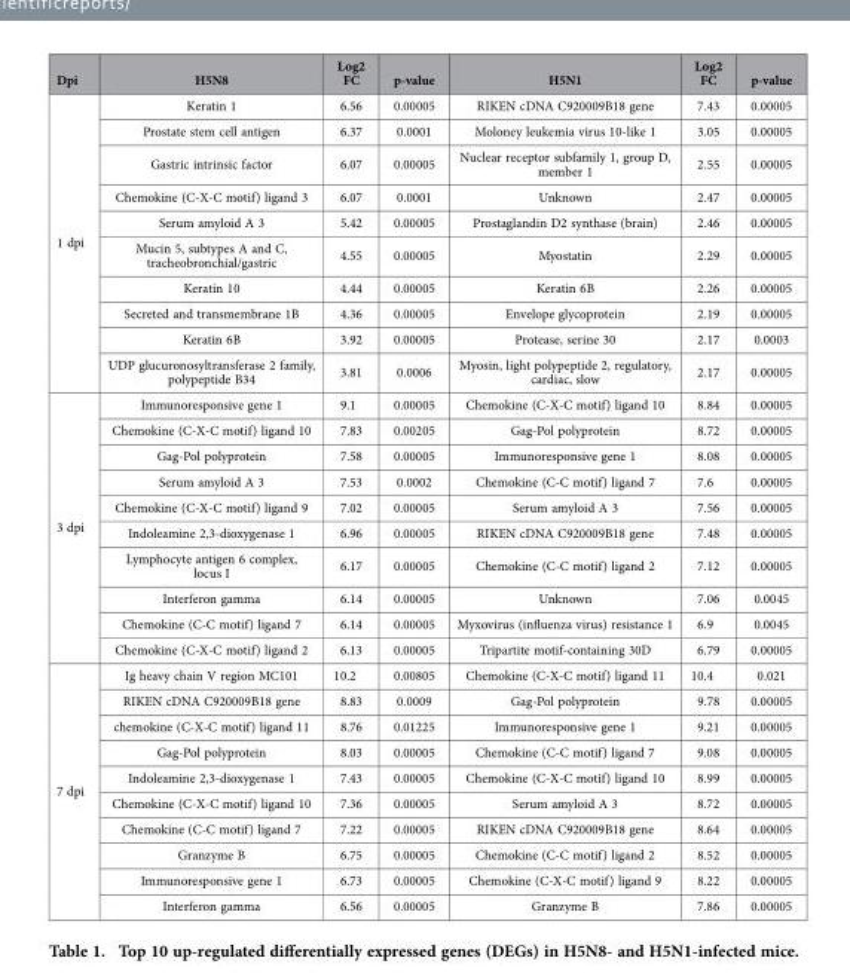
<table><thead><tr><td>Dpi</td><td>H5N8</td><td>Log2 FC</td><td>p-value</td><td>H5N1</td><td>Log2 FC</td><td>p-value</td></tr></thead><tbody><tr><td rowspan="10">1 dpi</td><td>Keratin 1</td><td>6.56</td><td>0.00005</td><td>RIKEN cDNA C920009B18 gene</td><td>7.43</td><td>0.00005</td></tr><tr><td>Prostate stem cell antigen</td><td>6.37</td><td>0.0001</td><td>Moloney leukemia virus 10-like 1</td><td>3.05</td><td>0.00005</td></tr><tr><td>Gastric intrinsic factor</td><td>6.07</td><td>0.00005</td><td>Nuclear receptor subfamily 1, group D, member 1</td><td>2.55</td><td>0.00005</td></tr><tr><td>Chemokine (C-X-C motif) ligand 3</td><td>6.07</td><td>0.0001</td><td>Unknown</td><td>2.47</td><td>0.00005</td></tr><tr><td>Serum amyloid A 3</td><td>5.42</td><td>0.00005</td><td>Prostaglandin D2 synthase (brain)</td><td>2.46</td><td>0.00005</td></tr><tr><td>Mucin 5, subtypes A and C, tracheobronchial/gastric</td><td>4.55</td><td>0.00005</td><td>Myostatin</td><td>2.29</td><td>0.00005</td></tr><tr><td>Keratin 10</td><td>4.44</td><td>0.00005</td><td>Keratin 6B</td><td>2.26</td><td>0.00005</td></tr><tr><td>Secreted and transmembrane 1B</td><td>4.36</td><td>0.00005</td><td>Envelope glycoprotein</td><td>2.19</td><td>0.00005</td></tr><tr><td>Keratin 6B</td><td>3.92</td><td>0.00005</td><td>Protease, serine 30</td><td>2.17</td><td>0.0003</td></tr><tr><td>UDP glucuronosyltransferase 2 family, polypeptide B34</td><td>3.81</td><td>0.0006</td><td>Myosin, light polypeptide 2, regulatory, cardiac, slow</td><td>2.17</td><td>0.00005</td></tr><tr><td rowspan="10">3 dpi</td><td>Immunoresponsive gene 1</td><td>9.1</td><td>0.00005</td><td>Chemokine (C-X-C motif) ligand 10</td><td>8.84</td><td>0.00005</td></tr><tr><td>Chemokine (C-X-C motif) ligand 10</td><td>7.83</td><td>0.00205</td><td>Gag-Pol polyprotein</td><td>8.72</td><td>0.00005</td></tr><tr><td>Gag-Pol polyprotein</td><td>7.58</td><td>0.00005</td><td>Immunoresponsive gene 1</td><td>8.08</td><td>0.00005</td></tr><tr><td>Serum amyloid A 3</td><td>7.53</td><td>0.0002</td><td>Chemokine (C-C motif) ligand 7</td><td>7.6</td><td>0.00005</td></tr><tr><td>Chemokine (C-X-C motif) ligand 9</td><td>7.02</td><td>0.00005</td><td>Serum amyloid A 3</td><td>7.56</td><td>0.00005</td></tr><tr><td>Indoleamine 2,3-dioxygenase 1</td><td>6.96</td><td>0.00005</td><td>RIKEN cDNA C920009B18 gene</td><td>7.48</td><td>0.00005</td></tr><tr><td>Lymphocyte antigen 6 complex, locus I</td><td>6.17</td><td>0.00005</td><td>Chemokine (C-C motif) ligand 2</td><td>7.12</td><td>0.00005</td></tr><tr><td>Interferon gamma</td><td>6.14</td><td>0.00005</td><td>Unknown</td><td>7.06</td><td>0.0045</td></tr><tr><td>Chemokine (C-C motif) ligand 7</td><td>6.14</td><td>0.00005</td><td>Myxovirus (influenza virus) resistance 1</td><td>6.9</td><td>0.0045</td></tr><tr><td>Chemokine (C-X-C motif) ligand 2</td><td>6.13</td><td>0.00005</td><td>Tripartite motif-containing 30D</td><td>6.79</td><td>0.00005</td></tr><tr><td rowspan="10">7 dpi</td><td>Ig heavy chain V region MC101</td><td>10.2</td><td>0.00805</td><td>Chemokine (C-X-C motif) ligand 11</td><td>10.4</td><td>0.021</td></tr><tr><td>RIKEN cDNA C920009B18 gene</td><td>8.83</td><td>0.0009</td><td>Gag-Pol polyprotein</td><td>9.78</td><td>0.00005</td></tr><tr><td>chemokine (C-X-C motif) ligand 11</td><td>8.76</td><td>0.01225</td><td>Immunoresponsive gene 1</td><td>9.21</td><td>0.00005</td></tr><tr><td>Gag-Pol polyprotein</td><td>8.03</td><td>0.00005</td><td>Chemokine (C-C motif) ligand 7</td><td>9.08</td><td>0.00005</td></tr><tr><td>Indoleamine 2,3-dioxygenase 1</td><td>7.43</td><td>0.00005</td><td>Chemokine (C-X-C motif) ligand 10</td><td>8.99</td><td>0.00005</td></tr><tr><td>Chemokine (C-X-C motif) ligand 10</td><td>7.36</td><td>0.00005</td><td>Serum amyloid A 3</td><td>8.72</td><td>0.00005</td></tr><tr><td>Chemokine (C-C motif) ligand 7</td><td>7.22</td><td>0.00005</td><td>RIKEN cDNA C920009B18 gene</td><td>8.64</td><td>0.00005</td></tr><tr><td>Granzyme B</td><td>6.75</td><td>0.00005</td><td>Chemokine (C-C motif) ligand 2</td><td>8.52</td><td>0.00005</td></tr><tr><td>Immunoresponsive gene 1</td><td>6.73</td><td>0.00005</td><td>Chemokine (C-X-C motif) ligand 9</td><td>8.22</td><td>0.00005</td></tr><tr><td>Interferon gamma</td><td>6.56</td><td>0.00005</td><td>Granzyme B</td><td>7.86</td><td>0.00005</td></tr></tbody></table>